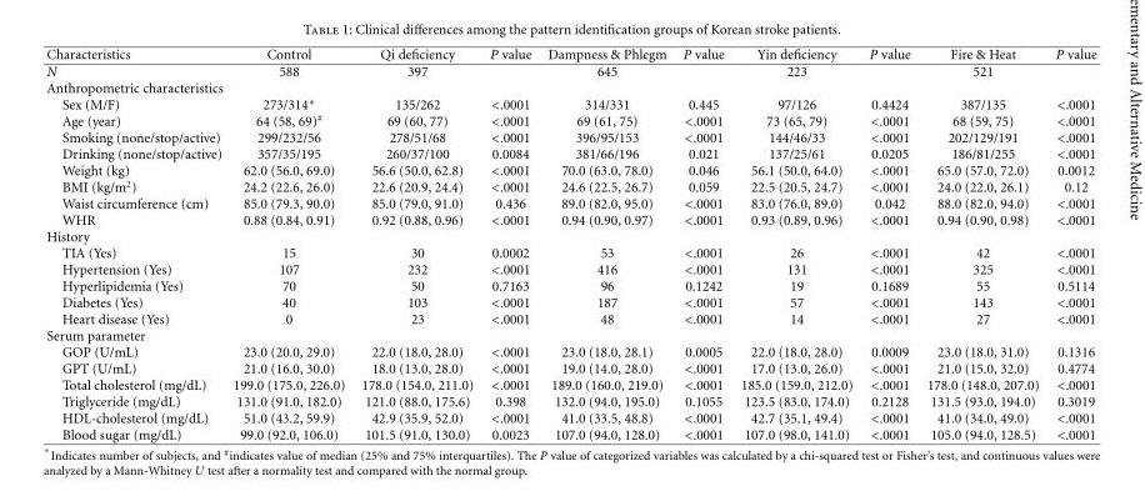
<table><thead><tr><td>Characteristics</td><td>Control</td><td>Qi deficiency</td><td>P value</td><td>Dampness &amp; Phlegm</td><td>P value</td><td>Yin deficiency</td><td>P value</td><td>Fire &amp; Heat</td><td>P value</td></tr></thead><tbody><tr><td>N</td><td>588</td><td>397</td><td></td><td>645</td><td></td><td>223</td><td></td><td>521</td><td></td></tr><tr><td colspan="10">Anthropometric characteristics</td></tr><tr><td>Sex (M/F)</td><td>273/314∗</td><td>135/262</td><td>&lt;.0001</td><td>314/331</td><td>0.445</td><td>97/126</td><td>0.4424</td><td>387/135</td><td>&lt;.0001</td></tr><tr><td>Age (year)</td><td>64 (58, 69)<sup>#</sup></td><td>69 (60, 77)</td><td>&lt;.0001</td><td>69 (61, 75)</td><td>&lt;.0001</td><td>73 (65, 79)</td><td>&lt;.0001</td><td>68 (59, 75)</td><td>&lt;.0001</td></tr><tr><td>Smoking (none/stop/active)</td><td>299/232/56</td><td>278/51/68</td><td>&lt;.0001</td><td>396/95/153</td><td>&lt;.0001</td><td>144/46/33</td><td>&lt;.0001</td><td>202/129/191</td><td>&lt;.0001</td></tr><tr><td>Drinking (none/stop/active)</td><td>357/35/195</td><td>260/37/100</td><td>0.0084</td><td>381/66/196</td><td>0.021</td><td>137/25/61</td><td>0.0205</td><td>186/81/255</td><td>&lt;.0001</td></tr><tr><td>Weight (kg)</td><td>62.0 (56.0, 69.0)</td><td>56.6 (50.0, 62.8)</td><td>&lt;.0001</td><td>70.0 (63.0, 78.0)</td><td>0.046</td><td>56.1 (50.0, 64.0)</td><td>&lt;.0001</td><td>65.0 (57.0, 72.0)</td><td>0.0012</td></tr><tr><td>BMI (kg/m<sup>2</sup>)</td><td>24.2 (22.6, 26.0)</td><td>22.6 (20.9, 24.4)</td><td>&lt;.0001</td><td>24.6 (22.5, 26.7)</td><td>0.059</td><td>22.5 (20.5, 24.7)</td><td>&lt;.0001</td><td>24.0 (22.0, 26.1)</td><td>0.12</td></tr><tr><td>Waist circumference (cm)</td><td>85.0 (79.3, 90.0)</td><td>85.0 (79.0, 91.0)</td><td>0.436</td><td>89.0 (82.0, 95.0)</td><td>&lt;.0001</td><td>83.0 (76.0, 89.0)</td><td>0.042</td><td>88.0 (82.0, 94.0)</td><td>&lt;.0001</td></tr><tr><td>WHR</td><td>0.88 (0.84, 0.91)</td><td>0.92 (0.88, 0.96)</td><td>&lt;.0001</td><td>0.94 (0.90, 0.97)</td><td>&lt;.0001</td><td>0.93 (0.89, 0.96)</td><td>&lt;.0001</td><td>0.94 (0.90, 0.98)</td><td>&lt;.0001</td></tr><tr><td colspan="10">History</td></tr><tr><td>TIA (Yes)</td><td>15</td><td>30</td><td>0.0002</td><td>53</td><td>&lt;.0001</td><td>26</td><td>&lt;.0001</td><td>42</td><td>&lt;.0001</td></tr><tr><td>Hypertension (Yes)</td><td>107</td><td>232</td><td>&lt;.0001</td><td>416</td><td>&lt;.0001</td><td>131</td><td>&lt;.0001</td><td>325</td><td>&lt;.0001</td></tr><tr><td>Hyperlipidemia (Yes)</td><td>70</td><td>50</td><td>0.7163</td><td>96</td><td>0.1242</td><td>19</td><td>0.1689</td><td>55</td><td>0.5114</td></tr><tr><td>Diabetes (Yes)</td><td>40</td><td>103</td><td>&lt;.0001</td><td>187</td><td>&lt;.0001</td><td>57</td><td>&lt;.0001</td><td>143</td><td>&lt;.0001</td></tr><tr><td>Heart disease (Yes)</td><td>0</td><td>23</td><td>&lt;.0001</td><td>48</td><td>&lt;.0001</td><td>14</td><td>&lt;.0001</td><td>27</td><td>&lt;.0001</td></tr><tr><td colspan="10">Serum parameter</td></tr><tr><td>GOP (U/mL)</td><td>23.0 (20.0, 29.0)</td><td>22.0 (18.0, 28.0)</td><td>&lt;.0001</td><td>23.0 (18.0, 28.1)</td><td>0.0005</td><td>22.0 (18.0, 28.0)</td><td>0.0009</td><td>23.0 (18.0, 31.0)</td><td>0.1316</td></tr><tr><td>GPT (U/mL)</td><td>21.0 (16.0, 30.0)</td><td>18.0 (13.0, 28.0)</td><td>&lt;.0001</td><td>19.0 (14.0, 28.0)</td><td>&lt;.0001</td><td>17.0 (13.0, 26.0)</td><td>&lt;.0001</td><td>21.0 (15.0, 32.0)</td><td>0.4774</td></tr><tr><td>Total cholesterol (mg/dL)</td><td>199.0 (175.0, 226.0)</td><td>178.0 (154.0, 211.0)</td><td>&lt;.0001</td><td>189.0 (160.0, 219.0)</td><td>&lt;.0001</td><td>185.0 (159.0, 212.0)</td><td>&lt;.0001</td><td>178.0 (148.0, 207.0)</td><td>&lt;.0001</td></tr><tr><td>Triglyceride (mg/dL)</td><td>131.0 (91.0, 182.0)</td><td>121.0 (88.0, 175.6)</td><td>0.398</td><td>132.0 (94.0, 195.0)</td><td>0.1055</td><td>123.5 (83.0, 174.0)</td><td>0.2128</td><td>131.5 (93.0, 194.0)</td><td>0.3019</td></tr><tr><td>HDL-cholesterol (mg/dL)</td><td>51.0 (43.2, 59.9)</td><td>42.9 (35.9, 52.0)</td><td>&lt;.0001</td><td>41.0 (33.5, 48.8)</td><td>&lt;.0001</td><td>42.7 (35.1, 49.4)</td><td>&lt;.0001</td><td>41.0 (34.0, 49.0)</td><td>&lt;.0001</td></tr><tr><td>Blood sugar (mg/dL)</td><td>99.0 (92.0, 106.0)</td><td>101.5 (91.0, 130.0)</td><td>0.0023</td><td>107.0 (94.0, 128.0)</td><td>&lt;.0001</td><td>107.0 (98.0, 141.0)</td><td>&lt;.0001</td><td>105.0 (94.0, 128.5)</td><td>&lt;.0001</td></tr></tbody></table>